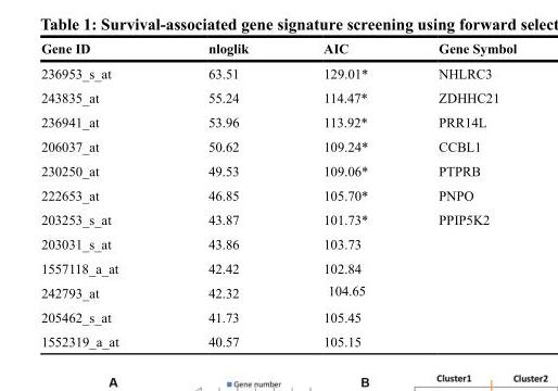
<table><thead><tr><td>Gene ID</td><td>nloglik</td><td>AIC</td><td>Gene Symbol</td></tr></thead><tbody><tr><td>236953_s_at</td><td>63.51</td><td>129.01*</td><td>NHLRC3</td></tr><tr><td>243835_at</td><td>55.24</td><td>114.47*</td><td>ZDHHC21</td></tr><tr><td>236941_at</td><td>53.96</td><td>113.92*</td><td>PRR14L</td></tr><tr><td>206037_at</td><td>50.62</td><td>109.24*</td><td>CCBL1</td></tr><tr><td>230250_at</td><td>49.53</td><td>109.06*</td><td>PTPRB</td></tr><tr><td>222653_at</td><td>46.85</td><td>105.70*</td><td>PNPO</td></tr><tr><td>203253_s_at</td><td>43.87</td><td>101.73*</td><td>PPIP5K2</td></tr><tr><td>203031_s_at</td><td>43.86</td><td>103.73</td><td></td></tr><tr><td>1557118_a_at</td><td>42.42</td><td>102.84</td><td></td></tr><tr><td>242793_at</td><td>42.32</td><td>104.65</td><td></td></tr><tr><td>205462_s_at</td><td>41.73</td><td>105.45</td><td></td></tr><tr><td>1552319_a_at</td><td>40.57</td><td>105.15</td><td></td></tr></tbody></table>